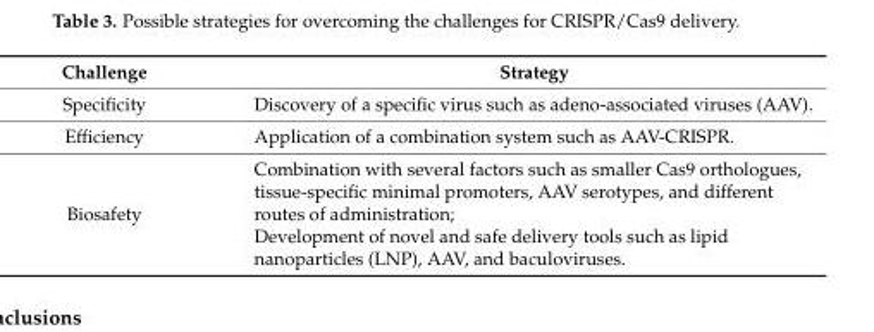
<table><thead><tr><td>Challenge</td><td>Strategy</td></tr></thead><tbody><tr><td>Specificity</td><td>Discovery of a specific virus such as adeno-associated viruses (AAV).</td></tr><tr><td>Efficiency</td><td>Application of a combination system such as AAV-CRISPR.</td></tr><tr><td>Biosafety</td><td>Combination with several factors such as smaller Cas9 orthologues, tissue-specific minimal promoters, AAV serotypes, and different routes of administration; Development of novel and safe delivery tools such as lipid nanoparticles (LNP), AAV, and baculoviruses.</td></tr></tbody></table>